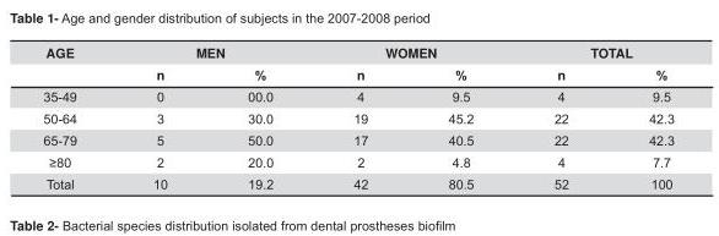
<table><thead><tr><td rowspan="2">AGE</td><td colspan="2">MEN</td><td colspan="2">WOMEN</td><td colspan="2">TOTAL</td></tr><tr><td>n</td><td>%</td><td>n</td><td>%</td><td>n</td><td>%</td></tr></thead><tbody><tr><td>35-49</td><td>0</td><td>00.0</td><td>4</td><td>9.5</td><td>4</td><td>9.5</td></tr><tr><td>50-64</td><td>3</td><td>30.0</td><td>19</td><td>45.2</td><td>22</td><td>42.3</td></tr><tr><td>65-79</td><td>5</td><td>50.0</td><td>17</td><td>40.5</td><td>22</td><td>42.3</td></tr><tr><td>&gt;80</td><td>2</td><td>20.0</td><td>2</td><td>4.8</td><td>4</td><td>7.7</td></tr><tr><td>Total</td><td>10</td><td>19.2</td><td>42</td><td>80.5</td><td>52</td><td>100</td></tr></tbody></table>